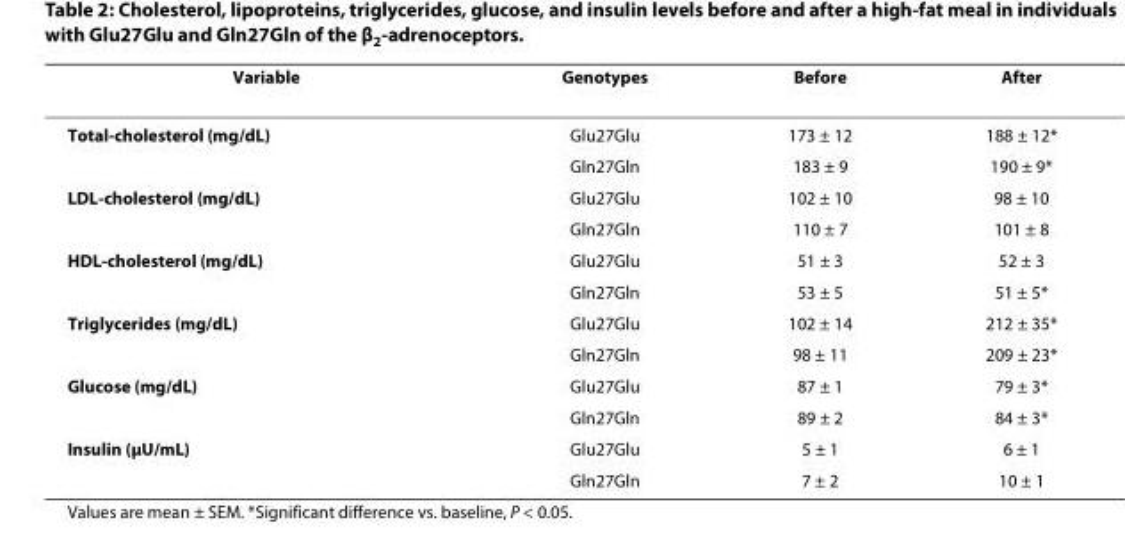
<table><thead><tr><td>Variable</td><td>Genotypes</td><td>Before</td><td>After</td></tr></thead><tbody><tr><td rowspan="2">Total-cholesterol (mg/dL)</td><td>Glu27Glu</td><td>173 ± 12</td><td>188 ± 12*</td></tr><tr><td>Gln27Gln</td><td>183 ± 9</td><td>190 ± 9*</td></tr><tr><td rowspan="2">LDL-cholesterol (mg/dL)</td><td>Glu27Glu</td><td>102 ± 10</td><td>98 ± 10</td></tr><tr><td>Gln27Gln</td><td>110 ± 7</td><td>101 ± 8</td></tr><tr><td rowspan="2">HDL-cholesterol (mg/dL)</td><td>Glu27Glu</td><td>51 ± 3</td><td>52 ± 3</td></tr><tr><td>Gln27Gln</td><td>53 ± 5</td><td>51 ± 5*</td></tr><tr><td rowspan="2">Triglycerides (mg/dL)</td><td>Glu27Glu</td><td>102 ± 14</td><td>212 ± 35*</td></tr><tr><td>Gln27Gln</td><td>98 ± 11</td><td>209 ± 23*</td></tr><tr><td rowspan="2">Glucose (mg/dL)</td><td>Glu27Glu</td><td>87 ± 1</td><td>79 ± 3*</td></tr><tr><td>Gln27Gln</td><td>89 ± 2</td><td>84 ± 3*</td></tr><tr><td rowspan="2">Insulin (μU/mL)</td><td>Glu27Glu</td><td>5 ± 1</td><td>6 ± 1</td></tr><tr><td>Gln27Gln</td><td>7 ± 2</td><td>10 ± 1</td></tr></tbody></table>